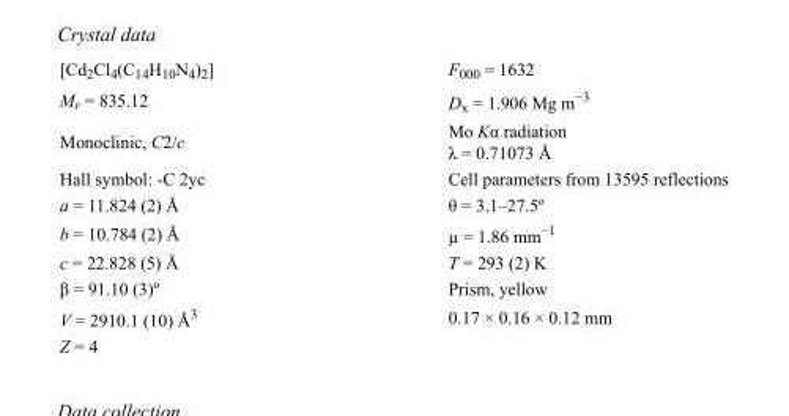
<table><tbody><tr><td>[Cd<sub>2</sub>Cl<sub>4</sub>(C<sub>14</sub>H<sub>10</sub>N<sub>4</sub>)<sub>2</sub>]</td><td>F000 = 1632</td></tr><tr><td>M<sub>r</sub> = 835.12</td><td>D<sub>x</sub> = 1.906 Mg m<sup>−3</sup></td></tr><tr><td>Monoclinic, C2/c</td><td>Mo Kα radiation λ = 0.71073 Å</td></tr><tr><td>Hall symbol: -C 2yc</td><td>Cell parameters from 13595 reflections</td></tr><tr><td>a = 11.824 (2) Å</td><td>θ = 3.1–27.5º</td></tr><tr><td>b = 10.784 (2) Å</td><td>µ = 1.86 mm<sup>−1</sup></td></tr><tr><td>c = 22.828 (5) Å</td><td>T = 293 (2) K</td></tr><tr><td>β = 91.10 (3)º</td><td>Prism, yellow</td></tr><tr><td>V = 2910.1 (10) Å<sup>3</sup></td><td>0.17 × 0.16 × 0.12 mm</td></tr><tr><td>Z = 4</td><td></td></tr></tbody></table>